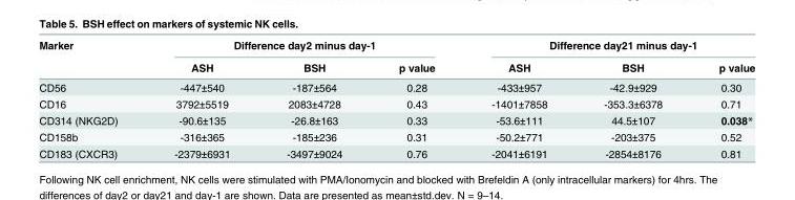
<table><thead><tr><td rowspan="2">Marker</td><td colspan="3">Difference day2 minus day-1</td><td colspan="3">Difference day21 minus day-1</td></tr><tr><td>ASH</td><td>BSH</td><td>p value</td><td>ASH</td><td>BSH</td><td>p value</td></tr></thead><tbody><tr><td>CD56</td><td>-447±540</td><td>-187±564</td><td>0.28</td><td>-433±957</td><td>-42.9±929</td><td>0.30</td></tr><tr><td>CD16</td><td>3792±5519</td><td>2083±4728</td><td>0.43</td><td>-1401±7858</td><td>-353.3±6378</td><td>0.71</td></tr><tr><td>CD314 (NKG2D)</td><td>-90.6±135</td><td>-26.8±163</td><td>0.33</td><td>-53.6±111</td><td>44.5±107</td><td>0.038*</td></tr><tr><td>CD158b</td><td>-316±365</td><td>-185±236</td><td>0.31</td><td>-50.2±771</td><td>-203±375</td><td>0.52</td></tr><tr><td>CD183 (CXCR3)</td><td>-2379±6931</td><td>-3497±9024</td><td>0.76</td><td>-2041±6191</td><td>-2854±8176</td><td>0.81</td></tr></tbody></table>